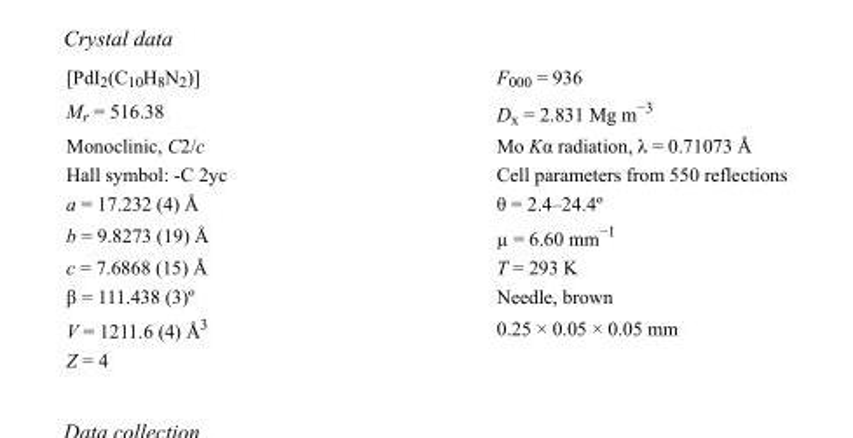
<table><tbody><tr><td>[PdI<sub>2</sub>(C<sub>10</sub>H<sub>8</sub>N<sub>2</sub>)]</td><td>F000 = 936</td></tr><tr><td>M<sub>r</sub> = 516.38</td><td>D<sub>x</sub> = 2.831 Mg m<sup>−3</sup></td></tr><tr><td>Monoclinic, C2/c</td><td>Mo Kα radiation, λ = 0.71073 Å</td></tr><tr><td>Hall symbol: -C 2yc</td><td>Cell parameters from 550 reflections</td></tr><tr><td>a = 17.232 (4) Å</td><td>θ = 2.4–24.4º</td></tr><tr><td>b = 9.8273 (19) Å</td><td>µ = 6.60 mm<sup>−1</sup></td></tr><tr><td>c = 7.6868 (15) Å</td><td>T = 293 K</td></tr><tr><td>β = 111.438 (3)º</td><td>Needle, brown</td></tr><tr><td>V = 1211.6 (4) Å<sup>3</sup></td><td>0.25 × 0.05 × 0.05 mm</td></tr><tr><td>Z = 4</td><td></td></tr></tbody></table>